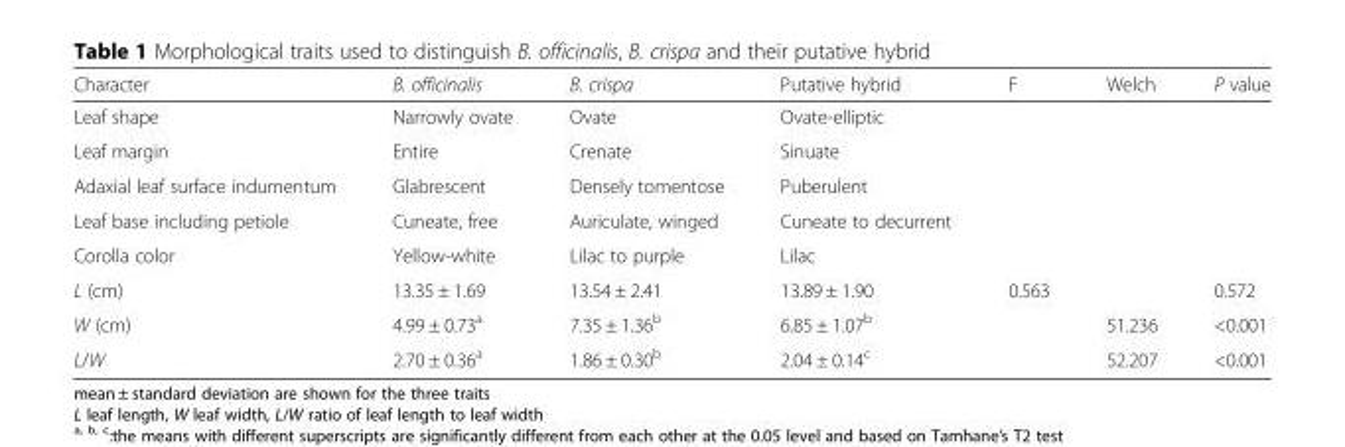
<table><thead><tr><td>Character</td><td>B. officinalis</td><td>B. crispa</td><td>Putative hybrid</td><td>F</td><td>Welch</td><td>P value</td></tr></thead><tbody><tr><td>Leaf shape</td><td>Narrowly ovate</td><td>Ovate</td><td>Ovate-elliptic</td><td></td><td></td><td></td></tr><tr><td>Leaf margin</td><td>Entire</td><td>Crenate</td><td>Sinuate</td><td></td><td></td><td></td></tr><tr><td>Adaxial leaf surface indumentum</td><td>Glabrescent</td><td>Densely tomentose</td><td>Puberulent</td><td></td><td></td><td></td></tr><tr><td>Leaf base including petiole</td><td>Cuneate, free</td><td>Auriculate, winged</td><td>Cuneate to decurrent</td><td></td><td></td><td></td></tr><tr><td>Corolla color</td><td>Yellow-white</td><td>Lilac to purple</td><td>Lilac</td><td></td><td></td><td></td></tr><tr><td>L (cm)</td><td>13.35 ± 1.69</td><td>13.54 ± 2.41</td><td>13.89 ± 1.90</td><td>0.563</td><td></td><td>0.572</td></tr><tr><td>W (cm)</td><td>4.99 ± 0.73<sup>a</sup></td><td>7.35 ± 1.36<sup>b</sup></td><td>6.85 ± 1.07<sup>b</sup></td><td></td><td>51.236</td><td>&lt;0.001</td></tr><tr><td>L/W</td><td>2.70 ± 0.36<sup>a</sup></td><td>1.86 ± 0.30<sup>b</sup></td><td>2.04 ± 0.14<sup>c</sup></td><td></td><td>52.207</td><td>&lt;0.001</td></tr></tbody></table>